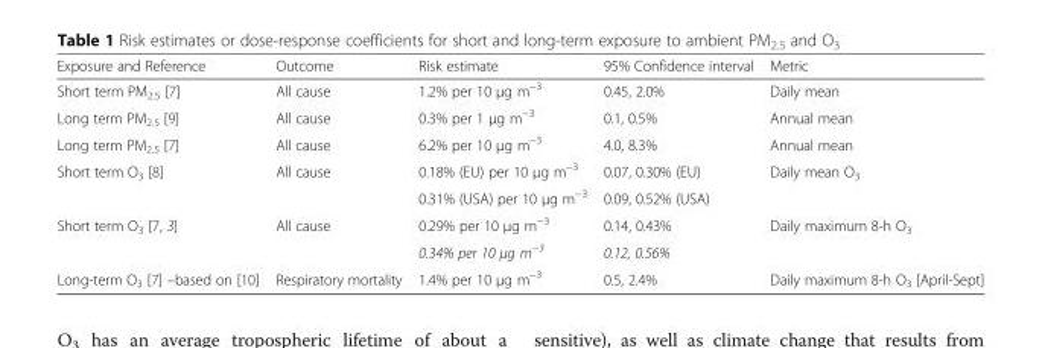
<table><thead><tr><td>Exposure and Reference</td><td>Outcome</td><td>Risk estimate</td><td>95% Confidence interval</td><td>Metric</td></tr></thead><tbody><tr><td>Short term PM<sub>2.5</sub> [7]</td><td>All cause</td><td>1.2% per 10 μg m<sup>−3</sup></td><td>0.45, 2.0%</td><td>Daily mean</td></tr><tr><td>Long term PM<sub>2.5</sub> [9]</td><td>All cause</td><td>0.3% per 1 μg m<sup>−3</sup></td><td>0.1, 0.5%</td><td>Annual mean</td></tr><tr><td>Long term PM<sub>2.5</sub> [7]</td><td>All cause</td><td>6.2% per 10 μg m<sup>−3</sup></td><td>4.0, 8.3%</td><td>Annual mean</td></tr><tr><td rowspan="2">Short term O<sub>3</sub> [8]</td><td rowspan="2">All cause</td><td>0.18% (EU) per 10 μg m<sup>−3</sup></td><td>0.07, 0.30% (EU)</td><td rowspan="2">Daily mean O<sub>3</sub></td></tr><tr><td>0.31% (USA) per 10 μg m<sup>−3</sup></td><td>0.09, 0.52% (USA)</td></tr><tr><td rowspan="2">Short term O<sub>3</sub> [7, 3]</td><td rowspan="2">All cause</td><td>0.29% per 10 μg m<sup>−3</sup></td><td>0.14, 0.43%</td><td rowspan="2">Daily maximum 8-h O<sub>3</sub></td></tr><tr><td>0.34% per 10 μg m<sup>−3</sup></td><td>0.12, 0.56%</td></tr><tr><td>Long-term O<sub>3</sub> [7] –based on [10]</td><td>Respiratory mortality</td><td>1.4% per 10 μg m<sup>−3</sup></td><td>0.5, 2.4%</td><td>Daily maximum 8-h O<sub>3</sub> [April-Sept]</td></tr></tbody></table>